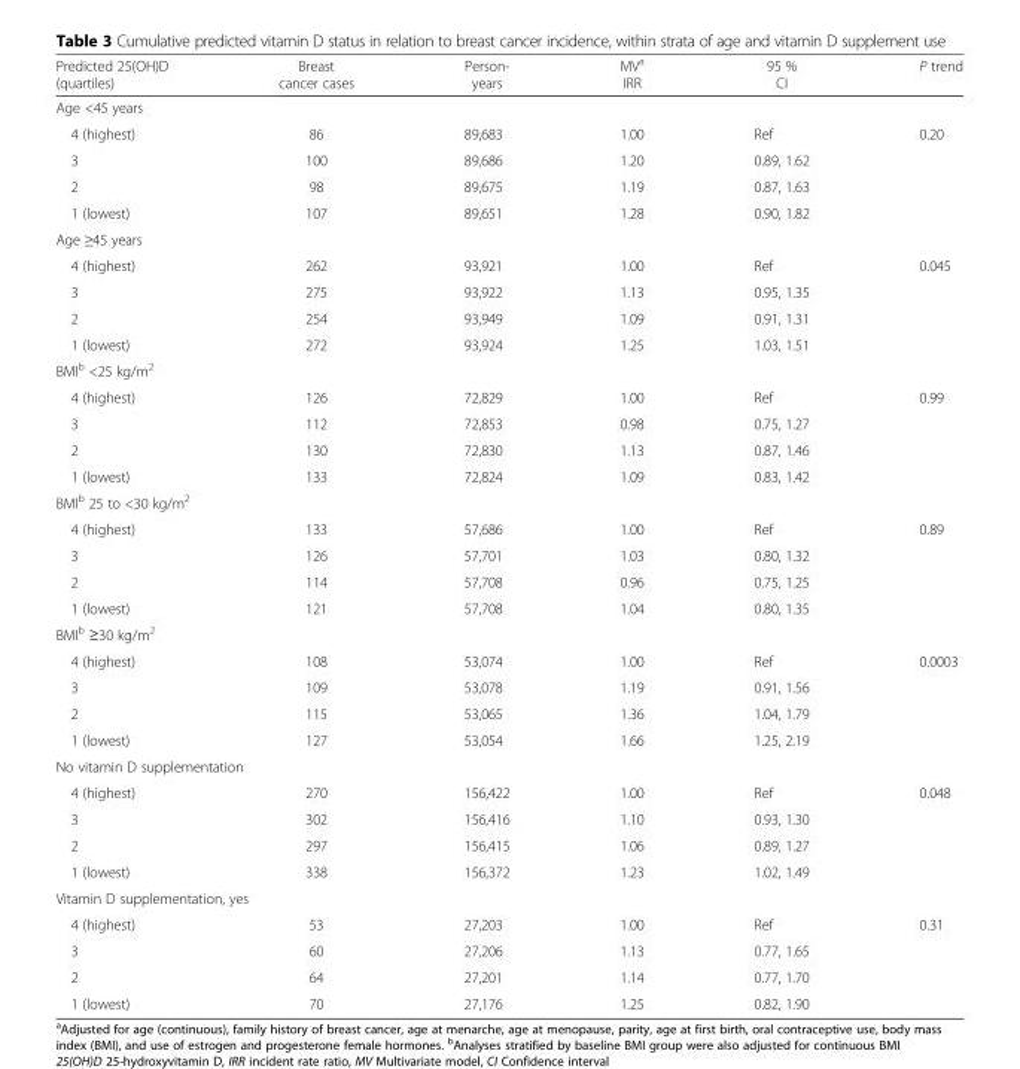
<table><thead><tr><td>Predicted 25(OH)D (quartiles)</td><td>Breast cancer cases</td><td>Person- years</td><td>MV<sup>a</sup> IRR</td><td>95 % CI</td><td>P trend</td></tr></thead><tbody><tr><td colspan="6">Age &lt;45 years</td></tr><tr><td>4 (highest)</td><td>86</td><td>89,683</td><td>1.00</td><td>Ref</td><td>0.20</td></tr><tr><td>3</td><td>100</td><td>89,686</td><td>1.20</td><td>0.89, 1.62</td><td></td></tr><tr><td>2</td><td>98</td><td>89,675</td><td>1.19</td><td>0.87, 1.63</td><td></td></tr><tr><td>1 (lowest)</td><td>107</td><td>89,651</td><td>1.28</td><td>0.90, 1.82</td><td></td></tr><tr><td colspan="6">Age ≥45 years</td></tr><tr><td>4 (highest)</td><td>262</td><td>93,921</td><td>1.00</td><td>Ref</td><td>0.045</td></tr><tr><td>3</td><td>275</td><td>93,922</td><td>1.13</td><td>0.95, 1.35</td><td></td></tr><tr><td>2</td><td>254</td><td>93,949</td><td>1.09</td><td>0.91, 1.31</td><td></td></tr><tr><td>1 (lowest)</td><td>272</td><td>93,924</td><td>1.25</td><td>1.03, 1.51</td><td></td></tr><tr><td colspan="6">BMI<sup>b</sup> &lt;25 kg/m<sup>2</sup></td></tr><tr><td>4 (highest)</td><td>126</td><td>72,829</td><td>1.00</td><td>Ref</td><td>0.99</td></tr><tr><td>3</td><td>112</td><td>72,853</td><td>0.98</td><td>0.75, 1.27</td><td></td></tr><tr><td>2</td><td>130</td><td>72,830</td><td>1.13</td><td>0.87, 1.46</td><td></td></tr><tr><td>1 (lowest)</td><td>133</td><td>72,824</td><td>1.09</td><td>0.83, 1.42</td><td></td></tr><tr><td colspan="6">BMI<sup>b</sup> 25 to &lt;30 kg/m<sup>2</sup></td></tr><tr><td>4 (highest)</td><td>133</td><td>57,686</td><td>1.00</td><td>Ref</td><td>0.89</td></tr><tr><td>3</td><td>126</td><td>57,701</td><td>1.03</td><td>0.80, 1.32</td><td></td></tr><tr><td>2</td><td>114</td><td>57,708</td><td>0.96</td><td>0.75, 1.25</td><td></td></tr><tr><td>1 (lowest)</td><td>121</td><td>57,708</td><td>1.04</td><td>0.80, 1.35</td><td></td></tr><tr><td colspan="6">BMI<sup>b</sup> ≥30 kg/m<sup>2</sup></td></tr><tr><td>4 (highest)</td><td>108</td><td>53,074</td><td>1.00</td><td>Ref</td><td>0.0003</td></tr><tr><td>3</td><td>109</td><td>53,078</td><td>1.19</td><td>0.91, 1.56</td><td></td></tr><tr><td>2</td><td>115</td><td>53,065</td><td>1.36</td><td>1.04, 1.79</td><td></td></tr><tr><td>1 (lowest)</td><td>127</td><td>53,054</td><td>1.66</td><td>1.25, 2.19</td><td></td></tr><tr><td colspan="6">No vitamin D supplementation</td></tr><tr><td>4 (highest)</td><td>270</td><td>156,422</td><td>1.00</td><td>Ref</td><td>0.048</td></tr><tr><td>3</td><td>302</td><td>156,416</td><td>1.10</td><td>0.93, 1.30</td><td></td></tr><tr><td>2</td><td>297</td><td>156,415</td><td>1.06</td><td>0.89, 1.27</td><td></td></tr><tr><td>1 (lowest)</td><td>338</td><td>156,372</td><td>1.23</td><td>1.02, 1.49</td><td></td></tr><tr><td colspan="6">Vitamin D supplementation, yes</td></tr><tr><td>4 (highest)</td><td>53</td><td>27,203</td><td>1.00</td><td>Ref</td><td>0.31</td></tr><tr><td>3</td><td>60</td><td>27,206</td><td>1.13</td><td>0.77, 1.65</td><td></td></tr><tr><td>2</td><td>64</td><td>27,201</td><td>1.14</td><td>0.77, 1.70</td><td></td></tr><tr><td>1 (lowest)</td><td>70</td><td>27,176</td><td>1.25</td><td>0.82, 1.90</td><td></td></tr></tbody></table>